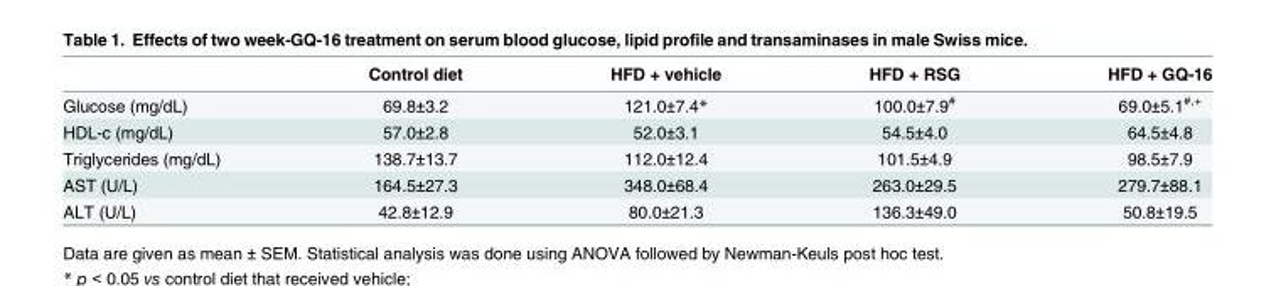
<table><thead><tr><td></td><td>Control diet</td><td>HFD + vehicle</td><td>HFD + RSG</td><td>HFD + GQ-16</td></tr></thead><tbody><tr><td>Glucose (mg/dL)</td><td>69.8±3.2</td><td>121.0±7.4*</td><td>100.0±7.9<sup>#</sup></td><td>69.0±5.1<sup>#,+</sup></td></tr><tr><td>HDL-c (mg/dL)</td><td>57.0±2.8</td><td>52.0±3.1</td><td>54.5±4.0</td><td>64.5±4.8</td></tr><tr><td>Triglycerides (mg/dL)</td><td>138.7±13.7</td><td>112.0±12.4</td><td>101.5±4.9</td><td>98.5±7.9</td></tr><tr><td>AST (U/L)</td><td>164.5±27.3</td><td>348.0±68.4</td><td>263.0±29.5</td><td>279.7±88.1</td></tr><tr><td>ALT (U/L)</td><td>42.8±12.9</td><td>80.0±21.3</td><td>136.3±49.0</td><td>50.8±19.5</td></tr></tbody></table>